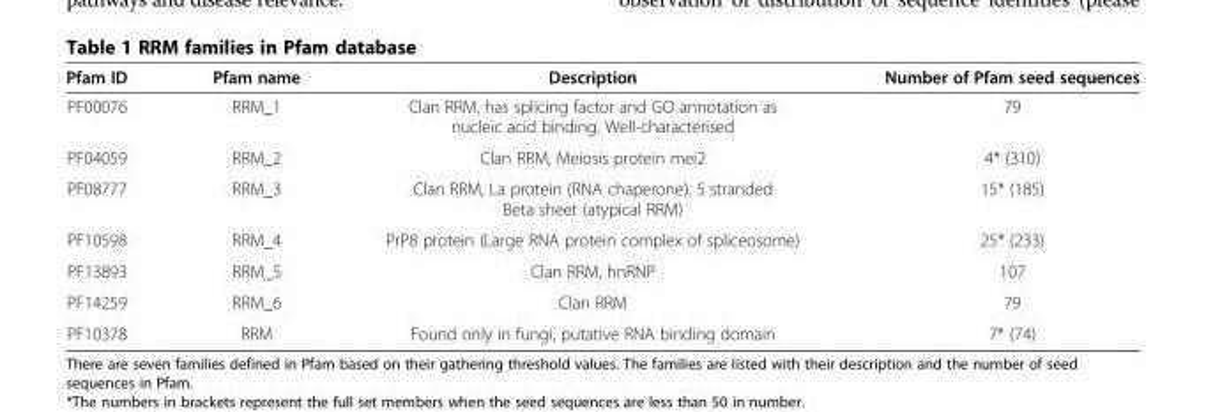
<table><thead><tr><td>Pfam ID</td><td>Pfam name</td><td>Description</td><td>Number of Pfam seed sequences</td></tr></thead><tbody><tr><td>PF00076</td><td>RRM_1</td><td>Clan RRM, has splicing factor and GO annotation as nucleic acid binding. Well-characterised</td><td>79</td></tr><tr><td>PF04059</td><td>RRM_2</td><td>Clan RRM, Meiosis protein mei2</td><td>4* (310)</td></tr><tr><td>PF08777</td><td>RRM_3</td><td>Clan RRM, La protein (RNA chaperone), 5 stranded Beta sheet (atypical RRM)</td><td>15* (185)</td></tr><tr><td>PF10598</td><td>RRM_4</td><td>PrP8 protein (Large RNA protein complex of spliceosome)</td><td>25* (233)</td></tr><tr><td>PF13893</td><td>RRM_5</td><td>Clan RRM, hnRNP</td><td>107</td></tr><tr><td>PF14259</td><td>RRM_6</td><td>Clan RRM</td><td>79</td></tr><tr><td>PF10378</td><td>RRM</td><td>Found only in fungi, putative RNA binding domain</td><td>7* (74)</td></tr></tbody></table>